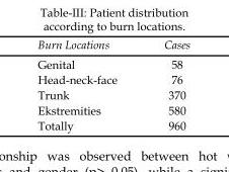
<table><thead><tr><td>Burn Locations</td><td>Cases</td></tr></thead><tbody><tr><td>Genital</td><td>58</td></tr><tr><td>Head-neck-face</td><td>76</td></tr><tr><td>Trunk</td><td>370</td></tr><tr><td>Ekstremities</td><td>580</td></tr><tr><td>Totally</td><td>960</td></tr></tbody></table>